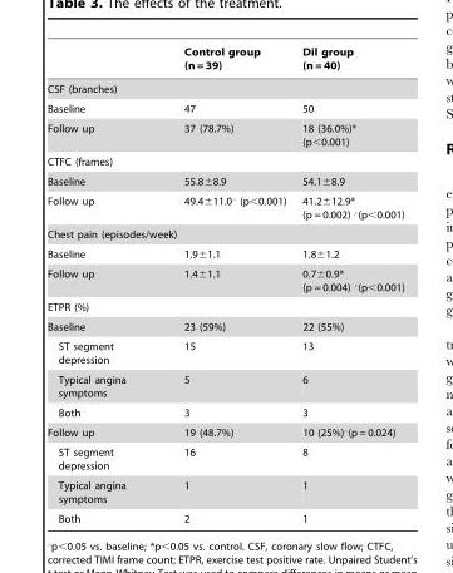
<table><thead><tr><td></td><td>Control group (n = 39)</td><td>Dil group (n = 40)</td></tr></thead><tbody><tr><td colspan="3">CSF (branches)</td></tr><tr><td>Baseline</td><td>47</td><td>50</td></tr><tr><td>Follow up</td><td>37 (78.7%)</td><td>18 (36.0%)* (p&lt;0.001)</td></tr><tr><td colspan="3">CTFC (frames)</td></tr><tr><td>Baseline</td><td>55.8±8.9</td><td>54.1±8.9</td></tr><tr><td>Follow up</td><td>49.4611.0‘ (p,0.001)</td><td>41.2612.9* (p = 0.002) ‘(p,0.001)</td></tr><tr><td colspan="3">Chest pain (episodes/week)</td></tr><tr><td>Baseline</td><td>1.9±1.1</td><td>1.8±1.2</td></tr><tr><td>Follow up</td><td>1.4±1.1</td><td>0.760.9* (p = 0.004) ‘(p,0.001)</td></tr><tr><td colspan="3">ETPR (%)</td></tr><tr><td>Baseline</td><td>23 (59%)</td><td>22 (55%)</td></tr><tr><td>ST segment depression</td><td>15</td><td>13</td></tr><tr><td>Typical angina symptoms</td><td>5</td><td>6</td></tr><tr><td>Both</td><td>3</td><td>3</td></tr><tr><td>Follow up</td><td>19 (48.7%)</td><td>10 (25%)‘(p = 0.024)</td></tr><tr><td>ST segment depression</td><td>16</td><td>8</td></tr><tr><td>Typical angina symptoms</td><td>1</td><td>1</td></tr><tr><td>Both</td><td>2</td><td>1</td></tr></tbody></table>